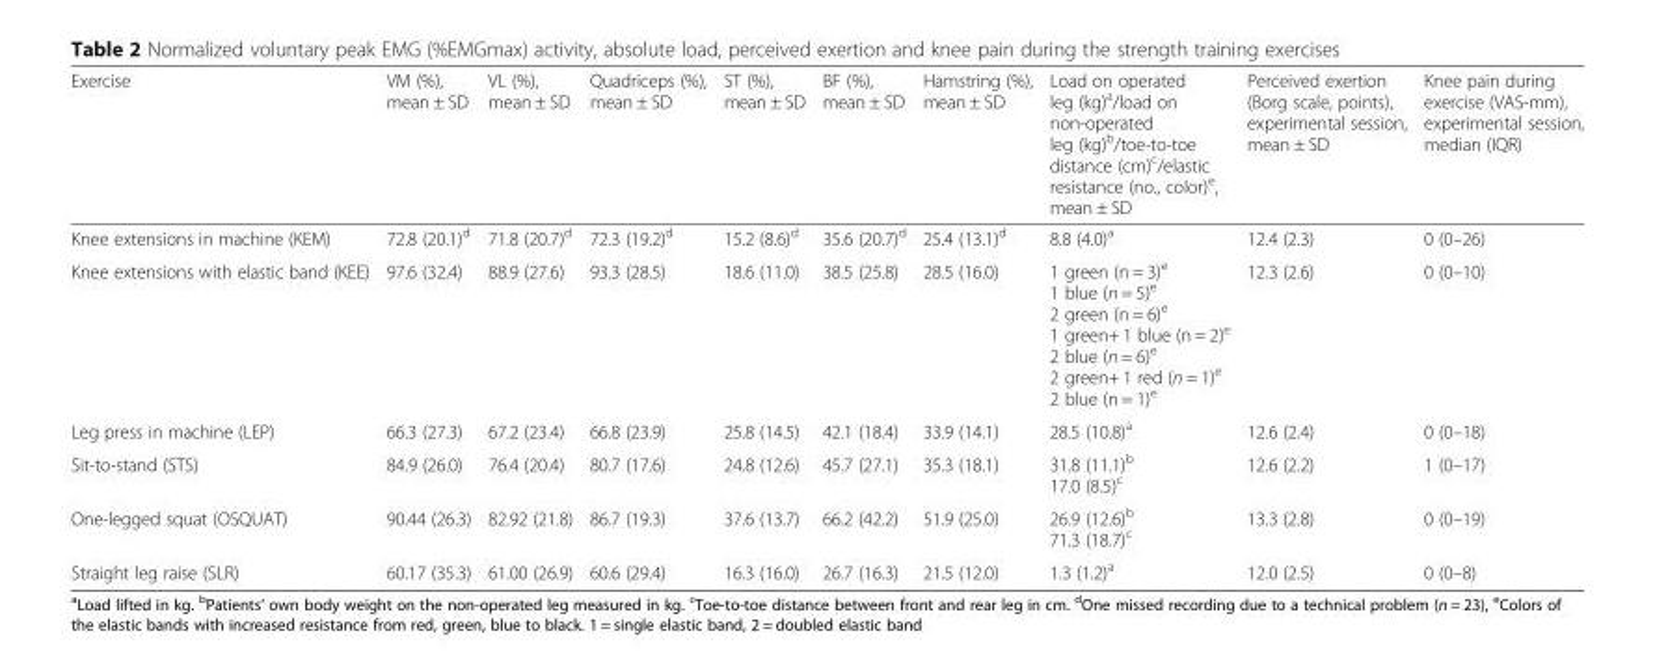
<table><thead><tr><td>Exercise</td><td>VM (%), mean ± SD</td><td>VL (%), mean ± SD</td><td>Quadriceps (%), mean ± SD</td><td>ST (%), mean ± SD</td><td>BF (%), mean ± SD</td><td>Hamstring (%), mean ± SD</td><td>Load on operated leg (kg)<sup>a</sup>/load on non-operated leg (kg)<sup>b</sup>/toe-to-toe distance (cm)<sup>c</sup>/elastic resistance (no., color)<sup>e</sup>, mean ± SD</td><td>Perceived exertion (Borg scale, points), experimental session, mean ± SD</td><td>Knee pain during exercise (VAS-mm), experimental session, median (IQR)</td></tr></thead><tbody><tr><td>Knee extensions in machine (KEM)</td><td>72.8 (20.1)<sup>d</sup></td><td>71.8 (20.7)<sup>d</sup></td><td>72.3 (19.2)<sup>d</sup></td><td>15.2 (8.6)<sup>d</sup></td><td>35.6 (20.7)<sup>d</sup></td><td>25.4 (13.1)<sup>d</sup></td><td>8.8 (4.0)<sup>a</sup></td><td>12.4 (2.3)</td><td>0 (0–26)</td></tr><tr><td>Knee extensions with elastic band (KEE)</td><td>97.6 (32.4)</td><td>88.9 (27.6)</td><td>93.3 (28.5)</td><td>18.6 (11.0)</td><td>38.5 (25.8)</td><td>28.5 (16.0)</td><td>1 green (n = 3)<sup>e</sup> 1 blue (n = 5)<sup>e</sup> 2 green (n = 6)<sup>e</sup> 1 green+ 1 blue (n = 2)<sup>e</sup> 2 blue (n = 6)<sup>e</sup> 2 green+ 1 red (n = 1)<sup>e</sup> 2 blue (n = 1)<sup>e</sup></td><td>12.3 (2.6)</td><td>0 (0–10)</td></tr><tr><td>Leg press in machine (LEP)</td><td>66.3 (27.3)</td><td>67.2 (23.4)</td><td>66.8 (23.9)</td><td>25.8 (14.5)</td><td>42.1 (18.4)</td><td>33.9 (14.1)</td><td>28.5 (10.8)<sup>a</sup></td><td>12.6 (2.4)</td><td>0 (0–18)</td></tr><tr><td>Sit-to-stand (STS)</td><td>84.9 (26.0)</td><td>76.4 (20.4)</td><td>80.7 (17.6)</td><td>24.8 (12.6)</td><td>45.7 (27.1)</td><td>35.3 (18.1)</td><td>31.8 (11.1)<sup>b</sup> 17.0 (8.5)<sup>c</sup></td><td>12.6 (2.2)</td><td>1 (0–17)</td></tr><tr><td>One-legged squat (OSQUAT)</td><td>90.44 (26.3)</td><td>82.92 (21.8)</td><td>86.7 (19.3)</td><td>37.6 (13.7)</td><td>66.2 (42.2)</td><td>51.9 (25.0)</td><td>26.9 (12.6)<sup>b</sup> 71.3 (18.7)<sup>c</sup></td><td>13.3 (2.8)</td><td>0 (0–19)</td></tr><tr><td>Straight leg raise (SLR)</td><td>60.17 (35.3)</td><td>61.00 (26.9)</td><td>60.6 (29.4)</td><td>16.3 (16.0)</td><td>26.7 (16.3)</td><td>21.5 (12.0)</td><td>1.3 (1.2)<sup>a</sup></td><td>12.0 (2.5)</td><td>0 (0–8)</td></tr></tbody></table>